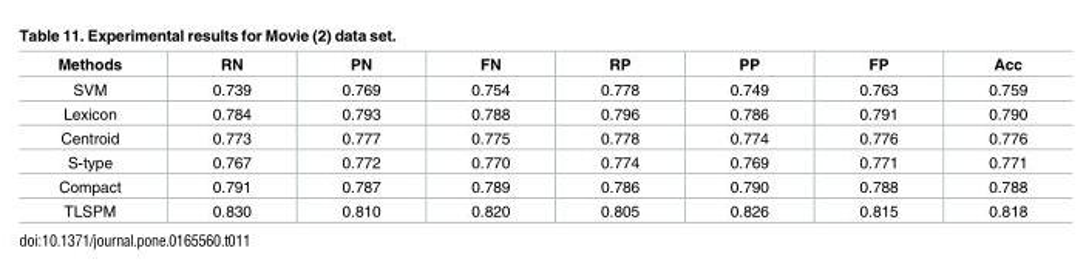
<table><thead><tr><td>Methods</td><td>RN</td><td>PN</td><td>FN</td><td>RP</td><td>PP</td><td>FP</td><td>Acc</td></tr></thead><tbody><tr><td>SVM</td><td>0.739</td><td>0.769</td><td>0.754</td><td>0.778</td><td>0.749</td><td>0.763</td><td>0.759</td></tr><tr><td>Lexicon</td><td>0.784</td><td>0.793</td><td>0.788</td><td>0.796</td><td>0.786</td><td>0.791</td><td>0.790</td></tr><tr><td>Centroid</td><td>0.773</td><td>0.777</td><td>0.775</td><td>0.778</td><td>0.774</td><td>0.776</td><td>0.776</td></tr><tr><td>S-type</td><td>0.767</td><td>0.772</td><td>0.770</td><td>0.774</td><td>0.769</td><td>0.771</td><td>0.771</td></tr><tr><td>Compact</td><td>0.791</td><td>0.787</td><td>0.789</td><td>0.786</td><td>0.790</td><td>0.788</td><td>0.788</td></tr><tr><td>TLSPM</td><td>0.830</td><td>0.810</td><td>0.820</td><td>0.805</td><td>0.826</td><td>0.815</td><td>0.818</td></tr></tbody></table>